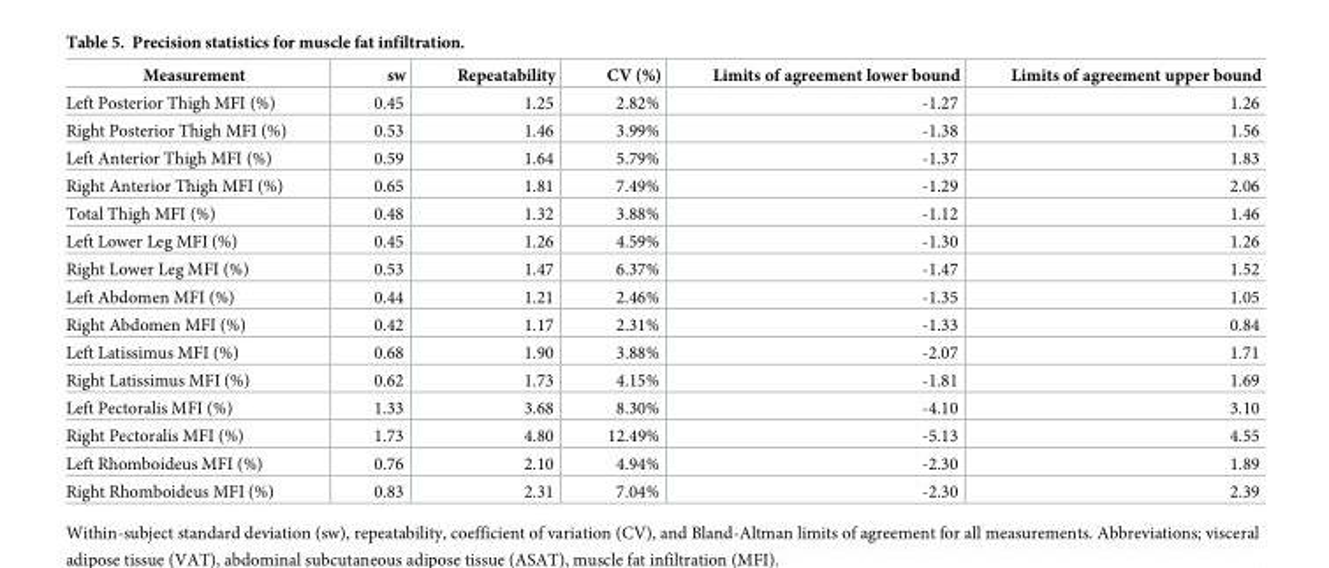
<table><thead><tr><td>Measurement</td><td>sw</td><td>Repeatability</td><td>CV (%)</td><td>Limits of agreement lower bound</td><td>Limits of agreement upper bound</td></tr></thead><tbody><tr><td>Left Posterior Thigh MFI (%)</td><td>0.45</td><td>1.25</td><td>2.82%</td><td>-1.27</td><td>1.26</td></tr><tr><td>Right Posterior Thigh MFI (%)</td><td>0.53</td><td>1.46</td><td>3.99%</td><td>-1.38</td><td>1.56</td></tr><tr><td>Left Anterior Thigh MFI (%)</td><td>0.59</td><td>1.64</td><td>5.79%</td><td>-1.37</td><td>1.83</td></tr><tr><td>Right Anterior Thigh MFI (%)</td><td>0.65</td><td>1.81</td><td>7.49%</td><td>-1.29</td><td>2.06</td></tr><tr><td>Total Thigh MFI (%)</td><td>0.48</td><td>1.32</td><td>3.88%</td><td>-1.12</td><td>1.46</td></tr><tr><td>Left Lower Leg MFI (%)</td><td>0.45</td><td>1.26</td><td>4.59%</td><td>-1.30</td><td>1.26</td></tr><tr><td>Right Lower Leg MFI (%)</td><td>0.53</td><td>1.47</td><td>6.37%</td><td>-1.47</td><td>1.52</td></tr><tr><td>Left Abdomen MFI (%)</td><td>0.44</td><td>1.21</td><td>2.46%</td><td>-1.35</td><td>1.05</td></tr><tr><td>Right Abdomen MFI (%)</td><td>0.42</td><td>1.17</td><td>2.31%</td><td>-1.33</td><td>0.84</td></tr><tr><td>Left Latissimus MFI (%)</td><td>0.68</td><td>1.90</td><td>3.88%</td><td>-2.07</td><td>1.71</td></tr><tr><td>Right Latissimus MFI (%)</td><td>0.62</td><td>1.73</td><td>4.15%</td><td>-1.81</td><td>1.69</td></tr><tr><td>Left Pectoralis MFI (%)</td><td>1.33</td><td>3.68</td><td>8.30%</td><td>-4.10</td><td>3.10</td></tr><tr><td>Right Pectoralis MFI (%)</td><td>1.73</td><td>4.80</td><td>12.49%</td><td>-5.13</td><td>4.55</td></tr><tr><td>Left Rhomboideus MFI (%)</td><td>0.76</td><td>2.10</td><td>4.94%</td><td>-2.30</td><td>1.89</td></tr><tr><td>Right Rhomboideus MFI (%)</td><td>0.83</td><td>2.31</td><td>7.04%</td><td>-2.30</td><td>2.39</td></tr></tbody></table>